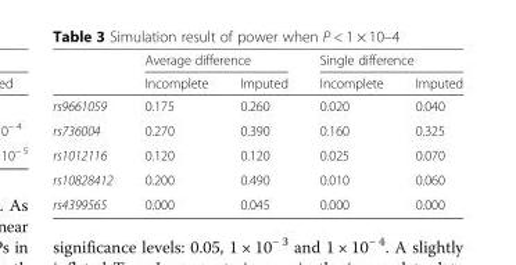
<table><thead><tr><td rowspan="2"></td><td colspan="2">Average difference</td><td colspan="2">Single difference</td></tr><tr><td>Incomplete</td><td>Imputed</td><td>Incomplete</td><td>Imputed</td></tr></thead><tbody><tr><td>rs9661059</td><td>0.175</td><td>0.260</td><td>0.020</td><td>0.040</td></tr><tr><td>rs736004</td><td>0.270</td><td>0.390</td><td>0.160</td><td>0.325</td></tr><tr><td>rs1012116</td><td>0.120</td><td>0.120</td><td>0.025</td><td>0.070</td></tr><tr><td>rs10828412</td><td>0.200</td><td>0.490</td><td>0.010</td><td>0.060</td></tr><tr><td>rs4399565</td><td>0.000</td><td>0.045</td><td>0.000</td><td>0.000</td></tr></tbody></table>